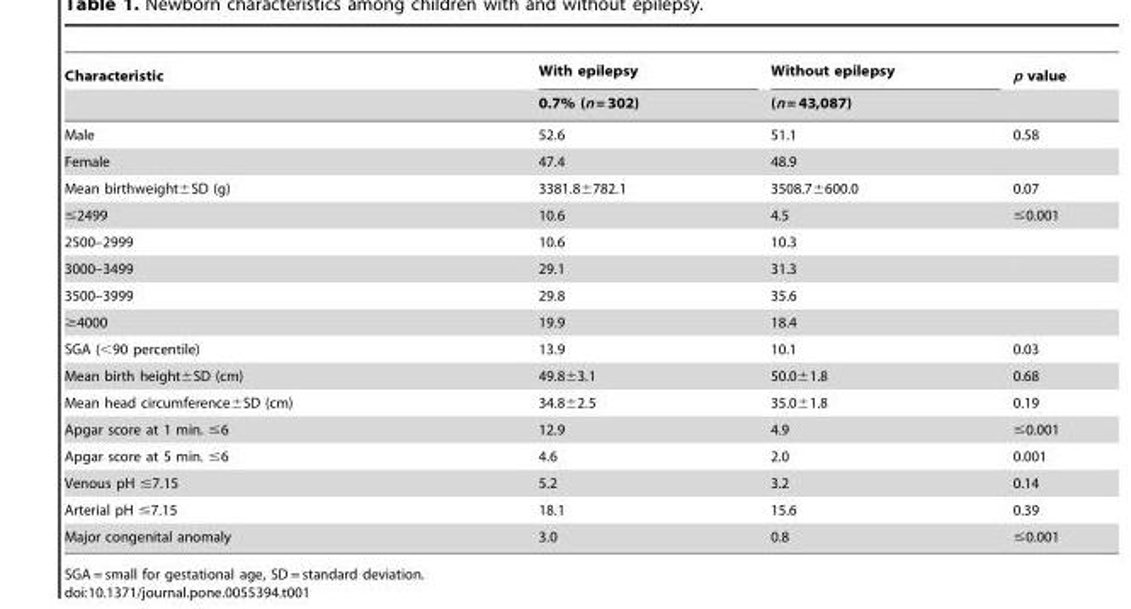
<table><thead><tr><td rowspan="2">Characteristic</td><td rowspan="2">With epilepsy 0.7% (n = 302)</td><td rowspan="2">Without epilepsy (n = 43,087)</td><td rowspan="2">p value</td></tr><tr></tr></thead><tbody><tr><td>Male</td><td>52.6</td><td>51.1</td><td>0.58</td></tr><tr><td>Female</td><td>47.4</td><td>48.9</td><td></td></tr><tr><td>Mean birthweight±SD (g)</td><td>3381.8±782.1</td><td>3508.7±600.0</td><td>0.07</td></tr><tr><td>≤2499</td><td>10.6</td><td>4.5</td><td>≤0.001</td></tr><tr><td>2500–2999</td><td>10.6</td><td>10.3</td><td></td></tr><tr><td>3000–3499</td><td>29.1</td><td>31.3</td><td></td></tr><tr><td>3500–3999</td><td>29.8</td><td>35.6</td><td></td></tr><tr><td>≥4000</td><td>19.9</td><td>18.4</td><td></td></tr><tr><td>SGA (&lt;90 percentile)</td><td>13.9</td><td>10.1</td><td>0.03</td></tr><tr><td>Mean birth height±SD (cm)</td><td>49.8±3.1</td><td>50.0±1.8</td><td>0.68</td></tr><tr><td>Mean head circumference±SD (cm)</td><td>34.8±2.5</td><td>35.0±1.8</td><td>0.19</td></tr><tr><td>Apgar score at 1 min. ≤6</td><td>12.9</td><td>4.9</td><td>≤0.001</td></tr><tr><td>Apgar score at 5 min. ≤6</td><td>4.6</td><td>2.0</td><td>0.001</td></tr><tr><td>Venous pH ≤7.15</td><td>5.2</td><td>3.2</td><td>0.14</td></tr><tr><td>Arterial pH ≤7.15</td><td>18.1</td><td>15.6</td><td>0.39</td></tr><tr><td>Major congenital anomaly</td><td>3.0</td><td>0.8</td><td>≤0.001</td></tr></tbody></table>